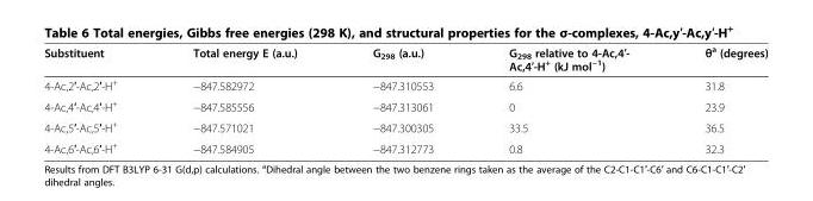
<table><thead><tr><td>Substituent</td><td>Total energy E (a.u.)</td><td>G<sub>298</sub> (a.u.)</td><td>G<sub>298</sub> relative to 4-Ac,4′- Ac,4′-H<sup>+</sup> (kJ mol<sup>−1</sup>)</td><td>θ<sup>a</sup> (degrees)</td></tr></thead><tbody><tr><td>4-Ac,2′-Ac,2′-H<sup>+</sup></td><td>−847.582972</td><td>−847.310553</td><td>6.6</td><td>31.8</td></tr><tr><td>4-Ac,4′-Ac,4′-H<sup>+</sup></td><td>−847.585556</td><td>−847.313061</td><td>0</td><td>23.9</td></tr><tr><td>4-Ac,5′-Ac,5′-H<sup>+</sup></td><td>−847.571021</td><td>−847.300305</td><td>33.5</td><td>36.5</td></tr><tr><td>4-Ac,6′-Ac,6′-H<sup>+</sup></td><td>−847.584905</td><td>−847.312773</td><td>0.8</td><td>32.3</td></tr></tbody></table>